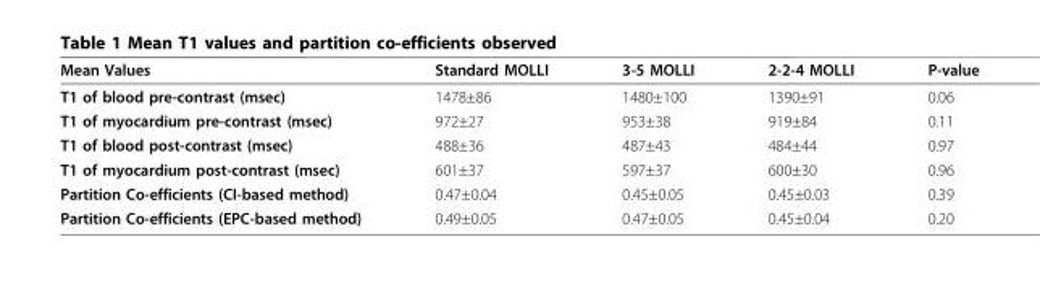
<table><thead><tr><td>Mean Values</td><td>Standard MOLLI</td><td>3-5 MOLLI</td><td>2-2-4 MOLLI</td><td>P-value</td></tr></thead><tbody><tr><td>T1 of blood pre-contrast (msec)</td><td>1478±86</td><td>1480±100</td><td>1390±91</td><td>0.06</td></tr><tr><td>T1 of myocardium pre-contrast (msec)</td><td>972±27</td><td>953±38</td><td>919±84</td><td>0.11</td></tr><tr><td>T1 of blood post-contrast (msec)</td><td>488±36</td><td>487±43</td><td>484±44</td><td>0.97</td></tr><tr><td>T1 of myocardium post-contrast (msec)</td><td>601±37</td><td>597±37</td><td>600±30</td><td>0.96</td></tr><tr><td>Partition Co-efficients (CI-based method)</td><td>0.47±0.04</td><td>0.45±0.05</td><td>0.45±0.03</td><td>0.39</td></tr><tr><td>Partition Co-efficients (EPC-based method)</td><td>0.49±0.05</td><td>0.47±0.05</td><td>0.45±0.04</td><td>0.20</td></tr></tbody></table>